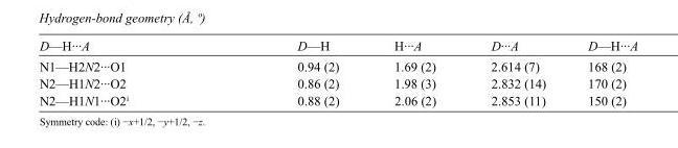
<table><tbody><tr><td>D—H···A</td><td>D—H</td><td>H···A</td><td>D···A</td><td>D—H···A</td></tr><tr><td>N1—H2N2···O1</td><td>0.94 (2)</td><td>1.69 (2)</td><td>2.614 (7)</td><td>168 (2)</td></tr><tr><td>N2—H1N2···O2</td><td>0.86 (2)</td><td>1.98 (3)</td><td>2.832 (14)</td><td>170 (2)</td></tr><tr><td>N2—H1N1···O2<sup>i</sup></td><td>0.88 (2)</td><td>2.06 (2)</td><td>2.853 (11)</td><td>150 (2)</td></tr></tbody></table>